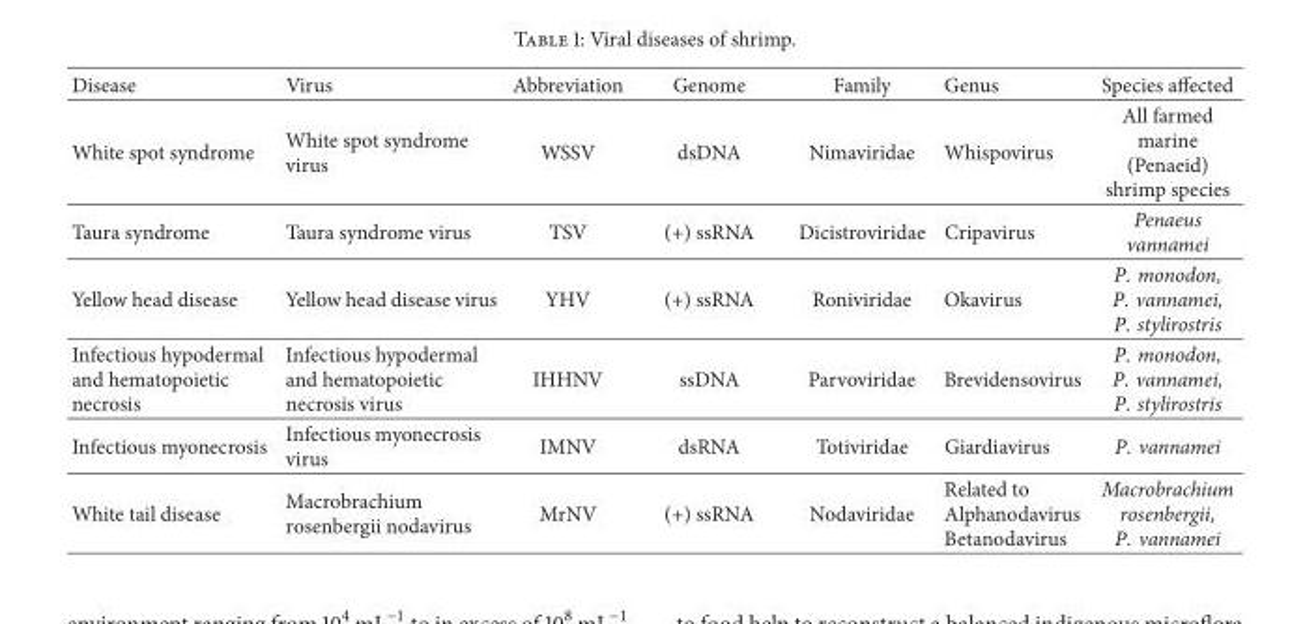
<table><thead><tr><td>Disease</td><td>Virus</td><td>Abbreviation</td><td>Genome</td><td>Family</td><td>Genus</td><td>Species affected</td></tr></thead><tbody><tr><td>White spot syndrome</td><td>White spot syndrome virus</td><td>WSSV</td><td>dsDNA</td><td>Nimaviridae</td><td>Whispovirus</td><td>All farmed marine (Penaeid) shrimp species</td></tr><tr><td>Taura syndrome</td><td>Taura syndrome virus</td><td>TSV</td><td>(+) ssRNA</td><td>Dicistroviridae</td><td>Cripavirus</td><td>Penaeus vannamei</td></tr><tr><td>Yellow head disease</td><td>Yellow head disease virus</td><td>YHV</td><td>(+) ssRNA</td><td>Roniviridae</td><td>Okavirus</td><td>P. monodon, P. vannamei, P. stylirostris</td></tr><tr><td>Infectious hypodermal and hematopoietic necrosis</td><td>Infectious hypodermal and hematopoietic necrosis virus</td><td>IHHNV</td><td>ssDNA</td><td>Parvoviridae</td><td>Brevidensovirus</td><td>P. monodon, P. vannamei, P. stylirostris</td></tr><tr><td>Infectious myonecrosis</td><td>Infectious myonecrosis virus</td><td>IMNV</td><td>dsRNA</td><td>Totiviridae</td><td>Giardiavirus</td><td>P. vannamei</td></tr><tr><td>White tail disease</td><td>Macrobrachium rosenbergii nodavirus</td><td>MrNV</td><td>(+) ssRNA</td><td>Nodaviridae</td><td>Related to Alphanodavirus Betanodavirus</td><td>Macrobrachium rosenbergii, P. vannamei</td></tr></tbody></table>